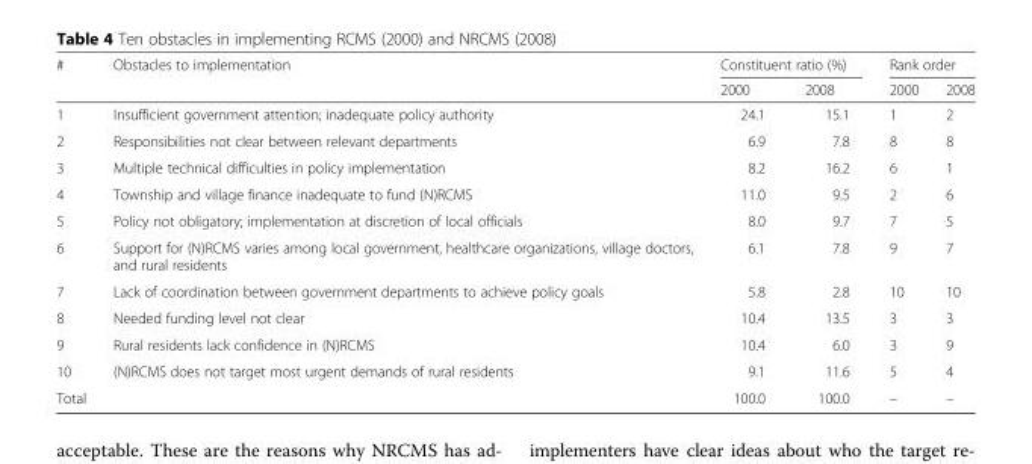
<table><thead><tr><td rowspan="2">#</td><td rowspan="2">Obstacles to implementation</td><td colspan="2">Constituent ratio (%)</td><td colspan="2">Rank order</td></tr><tr><td>2000</td><td>2008</td><td>2000</td><td>2008</td></tr></thead><tbody><tr><td>1</td><td>Insufficient government attention; inadequate policy authority</td><td>24.1</td><td>15.1</td><td>1</td><td>2</td></tr><tr><td>2</td><td>Responsibilities not clear between relevant departments</td><td>6.9</td><td>7.8</td><td>8</td><td>8</td></tr><tr><td>3</td><td>Multiple technical difficulties in policy implementation</td><td>8.2</td><td>16.2</td><td>6</td><td>1</td></tr><tr><td>4</td><td>Township and village finance inadequate to fund (N)RCMS</td><td>11.0</td><td>9.5</td><td>2</td><td>6</td></tr><tr><td>5</td><td>Policy not obligatory; implementation at discretion of local officials</td><td>8.0</td><td>9.7</td><td>7</td><td>5</td></tr><tr><td>6</td><td>Support for (N)RCMS varies among local government, healthcare organizations, village doctors, and rural residents</td><td>6.1</td><td>7.8</td><td>9</td><td>7</td></tr><tr><td>7</td><td>Lack of coordination between government departments to achieve policy goals</td><td>5.8</td><td>2.8</td><td>10</td><td>10</td></tr><tr><td>8</td><td>Needed funding level not clear</td><td>10.4</td><td>13.5</td><td>3</td><td>3</td></tr><tr><td>9</td><td>Rural residents lack confidence in (N)RCMS</td><td>10.4</td><td>6.0</td><td>3</td><td>9</td></tr><tr><td>10</td><td>(N)RCMS does not target most urgent demands of rural residents</td><td>9.1</td><td>11.6</td><td>5</td><td>4</td></tr><tr><td>Total</td><td></td><td>100.0</td><td>100.0</td><td>–</td><td>–</td></tr></tbody></table>